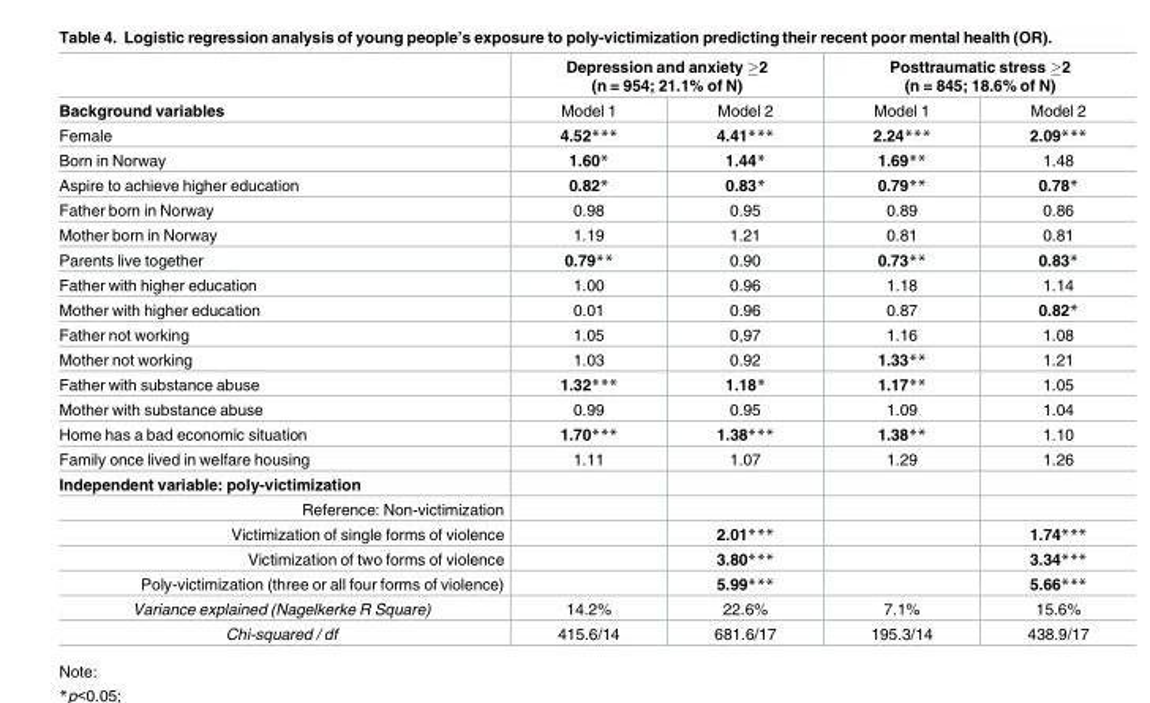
<table><thead><tr><td rowspan="2">Background variables</td><td colspan="2">Depression and anxiety ≥2 (n = 954; 21.1% of N)</td><td colspan="2">Posttraumatic stress ≥2 (n = 845; 18.6% of N)</td></tr><tr><td>Model 1</td><td>Model 2</td><td>Model 1</td><td>Model 2</td></tr></thead><tbody><tr><td>Female</td><td>4.52***</td><td>4.41***</td><td>2.24***</td><td>2.09***</td></tr><tr><td>Born in Norway</td><td>1.60*</td><td>1.44*</td><td>1.69**</td><td>1.48</td></tr><tr><td>Aspire to achieve higher education</td><td>0.82*</td><td>0.83*</td><td>0.79**</td><td>0.78*</td></tr><tr><td>Father born in Norway</td><td>0.98</td><td>0.95</td><td>0.89</td><td>0.86</td></tr><tr><td>Mother born in Norway</td><td>1.19</td><td>1.21</td><td>0.81</td><td>0.81</td></tr><tr><td>Parents live together</td><td>0.79**</td><td>0.90</td><td>0.73**</td><td>0.83*</td></tr><tr><td>Father with higher education</td><td>1.00</td><td>0.96</td><td>1.18</td><td>1.14</td></tr><tr><td>Mother with higher education</td><td>0.01</td><td>0.96</td><td>0.87</td><td>0.82*</td></tr><tr><td>Father not working</td><td>1.05</td><td>0,97</td><td>1.16</td><td>1.08</td></tr><tr><td>Mother not working</td><td>1.03</td><td>0.92</td><td>1.33**</td><td>1.21</td></tr><tr><td>Father with substance abuse</td><td>1.32***</td><td>1.18*</td><td>1.17**</td><td>1.05</td></tr><tr><td>Mother with substance abuse</td><td>0.99</td><td>0.95</td><td>1.09</td><td>1.04</td></tr><tr><td>Home has a bad economic situation</td><td>1.70***</td><td>1.38***</td><td>1.38**</td><td>1.10</td></tr><tr><td>Family once lived in welfare housing</td><td>1.11</td><td>1.07</td><td>1.29</td><td>1.26</td></tr><tr><td colspan="5">Independent variable: poly-victimization</td></tr><tr><td colspan="5">Reference: Non-victimization</td></tr><tr><td>Victimization of single forms of violence</td><td></td><td>2.01***</td><td></td><td>1.74***</td></tr><tr><td>Victimization of two forms of violence</td><td></td><td>3.80***</td><td></td><td>3.34***</td></tr><tr><td>Poly-victimization (three or all four forms of violence)</td><td></td><td>5.99***</td><td></td><td>5.66***</td></tr><tr><td>Variance explained (Nagelkerke R Square)</td><td>14.2%</td><td>22.6%</td><td>7.1%</td><td>15.6%</td></tr><tr><td>Chi-squared / df</td><td>415.6/14</td><td>681.6/17</td><td>195.3/14</td><td>438.9/17</td></tr></tbody></table>